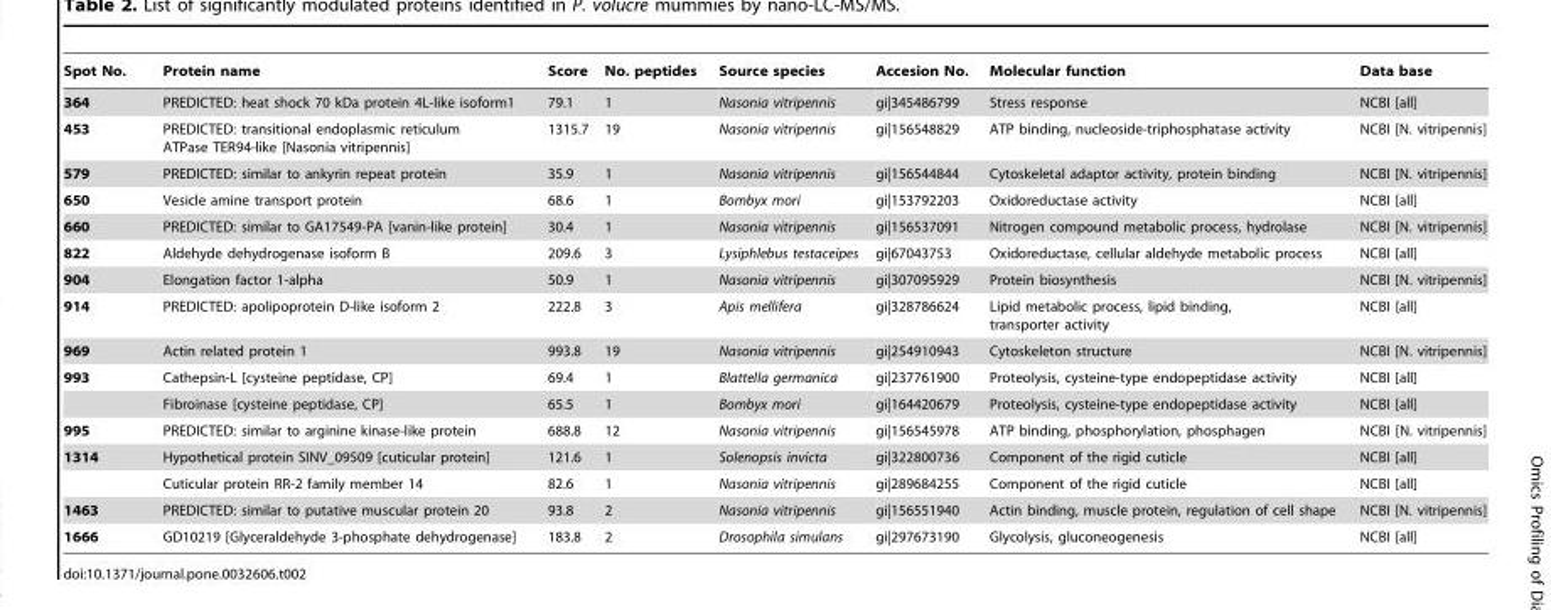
<table><thead><tr><td>Spot No.</td><td>Protein name</td><td>Score</td><td>No. peptides</td><td>Source species</td><td>Accesion No.</td><td>Molecular function</td><td>Data base</td></tr></thead><tbody><tr><td>364</td><td>PREDICTED: heat shock 70 kDa protein 4L-like isoform1</td><td>79.1</td><td>1</td><td>Nasonia vitripennis</td><td>gi|345486799</td><td>Stress response</td><td>NCBI [all]</td></tr><tr><td>453</td><td>PREDICTED: transitional endoplasmic reticulum ATPase TER94-like [Nasonia vitripennis]</td><td>1315.7</td><td>19</td><td>Nasonia vitripennis</td><td>gi|156548829</td><td>ATP binding, nucleoside-triphosphatase activity</td><td>NCBI [N. vitripennis]</td></tr><tr><td>579</td><td>PREDICTED: similar to ankyrin repeat protein</td><td>35.9</td><td>1</td><td>Nasonia vitripennis</td><td>gi|156544844</td><td>Cytoskeletal adaptor activity, protein binding</td><td>NCBI [N. vitripennis]</td></tr><tr><td>650</td><td>Vesicle amine transport protein</td><td>68.6</td><td>1</td><td>Bombyx mori</td><td>gi|153792203</td><td>Oxidoreductase activity</td><td>NCBI [all]</td></tr><tr><td>660</td><td>PREDICTED: similar to GA17549-PA [vanin-like protein]</td><td>30.4</td><td>1</td><td>Nasonia vitripennis</td><td>gi|156537091</td><td>Nitrogen compound metabolic process, hydrolase</td><td>NCBI [N. vitripennis]</td></tr><tr><td>822</td><td>Aldehyde dehydrogenase isoform B</td><td>209.6</td><td>3</td><td>Lysiphlebus testaceipes</td><td>gi|67043753</td><td>Oxidoreductase, cellular aldehyde metabolic process</td><td>NCBI [all]</td></tr><tr><td>904</td><td>Elongation factor 1-alpha</td><td>50.9</td><td>1</td><td>Nasonia vitripennis</td><td>gi|307095929</td><td>Protein biosynthesis</td><td>NCBI [N. vitripennis]</td></tr><tr><td>914</td><td>PREDICTED: apolipoprotein D-like isoform 2</td><td>222.8</td><td>3</td><td>Apis mellifera</td><td>gi|328786624</td><td>Lipid metabolic process, lipid binding, transporter activity</td><td>NCBI [all]</td></tr><tr><td>969</td><td>Actin related protein 1</td><td>993.8</td><td>19</td><td>Nasonia vitripennis</td><td>gi|254910943</td><td>Cytoskeleton structure</td><td>NCBI [N. vitripennis]</td></tr><tr><td rowspan="2">993</td><td>Cathepsin-L [cysteine peptidase, CP]</td><td>69.4</td><td>1</td><td>Blattella germanica</td><td>gi|237761900</td><td>Proteolysis, cysteine-type endopeptidase activity</td><td>NCBI [all]</td></tr><tr><td>Fibroinase [cysteine peptidase, CP]</td><td>65.5</td><td>1</td><td>Bombyx mori</td><td>gi|164420679</td><td>Proteolysis, cysteine-type endopeptidase activity</td><td>NCBI [all]</td></tr><tr><td>995</td><td>PREDICTED: similar to arginine kinase-like protein</td><td>688.8</td><td>12</td><td>Nasonia vitripennis</td><td>gi|156545978</td><td>ATP binding, phosphorylation, phosphagen</td><td>NCBI [N. vitripennis]</td></tr><tr><td rowspan="2">1314</td><td>Hypothetical protein SINV_09509 [cuticular protein]</td><td>121.6</td><td>1</td><td>Solenopsis invicta</td><td>gi|322800736</td><td>Component of the rigid cuticle</td><td>NCBI [all]</td></tr><tr><td>Cuticular protein RR-2 family member 14</td><td>82.6</td><td>1</td><td>Nasonia vitripennis</td><td>gi|289684255</td><td>Component of the rigid cuticle</td><td>NCBI [all]</td></tr><tr><td>1463</td><td>PREDICTED: similar to putative muscular protein 20</td><td>93.8</td><td>2</td><td>Nasonia vitripennis</td><td>gi|156551940</td><td>Actin binding, muscle protein, regulation of cell shape</td><td>NCBI [N. vitripennis]</td></tr><tr><td>1666</td><td>GD10219 [Glyceraldehyde 3-phosphate dehydrogenase]</td><td>183.8</td><td>2</td><td>Drosophila simulans</td><td>gi|297673190</td><td>Glycolysis, gluconeogenesis</td><td>NCBI [all]</td></tr></tbody></table>